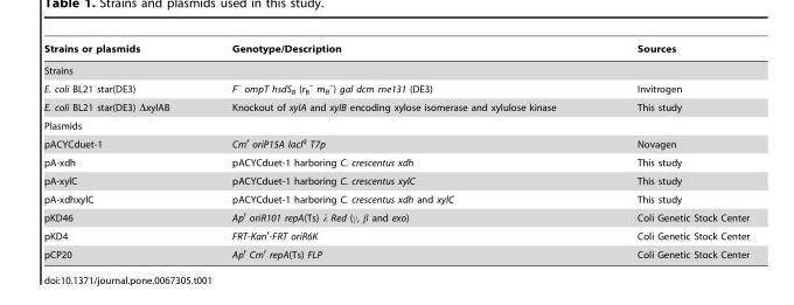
<table><thead><tr><td>Strains or plasmids</td><td>Genotype/Description</td><td>Sources</td></tr></thead><tbody><tr><td colspan="3">Strains</td></tr><tr><td>E. coli BL21 star(DE3)</td><td>F<sup>–</sup> ompT hsdS<sub>B</sub> (r<sub>B</sub> <sup>–</sup> m<sub>B</sub> <sup>–</sup>) gal dcm rne131 (DE3)</td><td>Invitrogen</td></tr><tr><td>E. coli BL21 star(DE3) ΔxylAB</td><td>Knockout of xylA and xylB encoding xylose isomerase and xylulose kinase</td><td>This study</td></tr><tr><td colspan="3">Plasmids</td></tr><tr><td>pACYCduet-1</td><td>Cm<sup>r</sup> oriP15A lacI<sup>q</sup> T7p</td><td>Novagen</td></tr><tr><td>pA-xdh</td><td>pACYCduet-1 harboring C. crescentus xdh</td><td>This study</td></tr><tr><td>pA-xylC</td><td>pACYCduet-1 harboring C. crescentus xylC</td><td>This study</td></tr><tr><td>pA-xdhxylC</td><td>pACYCduet-1 harboring C. crescentus xdh and xylC</td><td>This study</td></tr><tr><td>pKD46</td><td>Ap<sup>r</sup> oriR101 repA(Ts) λ Red (γ, β and exo)</td><td>Coli Genetic Stock Center</td></tr><tr><td>pKD4</td><td>FRT-Kan<sup>r</sup>-FRT oriR6K</td><td>Coli Genetic Stock Center</td></tr><tr><td>pCP20</td><td>Ap<sup>r</sup> Cm<sup>r</sup> repA(Ts) FLP</td><td>Coli Genetic Stock Center</td></tr></tbody></table>